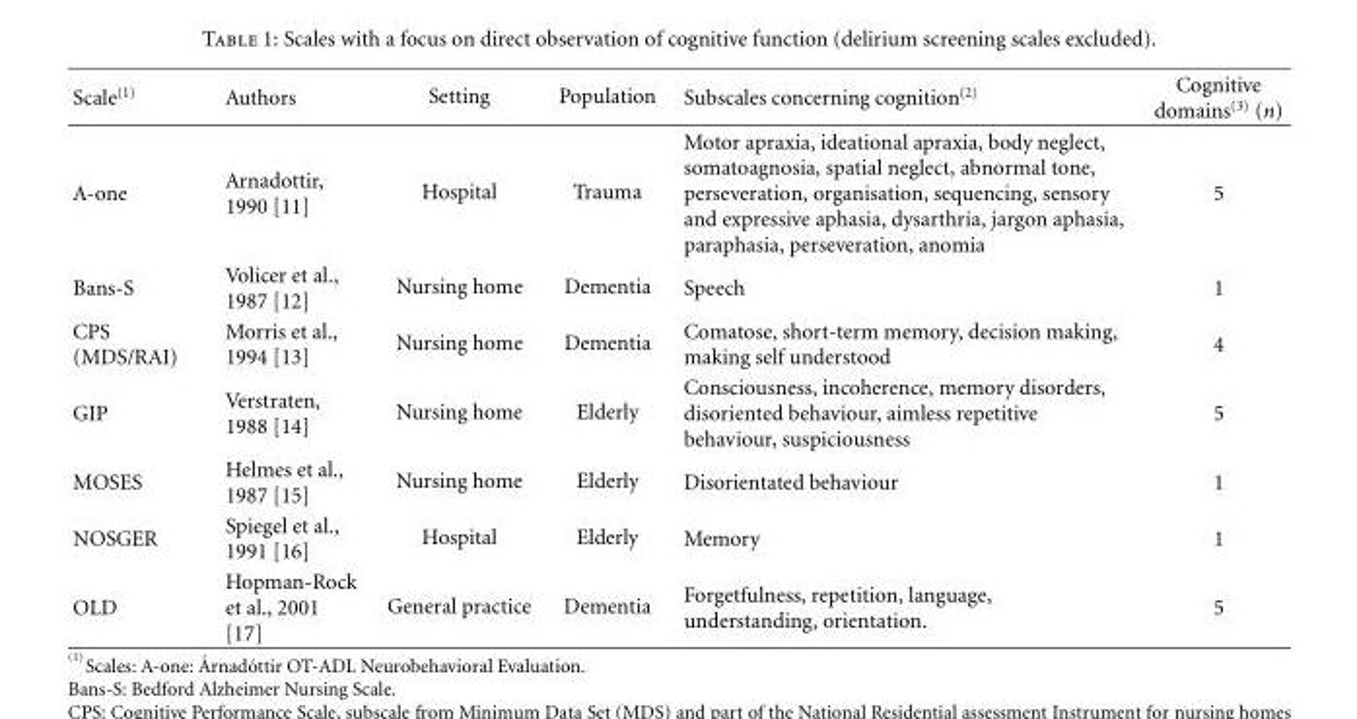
<table><thead><tr><td>Scale<sup>(1)</sup></td><td>Authors</td><td>Setting</td><td>Population</td><td>Subscales concerning cognition<sup>(2)</sup></td><td>Cognitive domains<sup>(3)</sup> (n)</td></tr></thead><tbody><tr><td>A-one</td><td>Arnadottir, 1990 [11]</td><td>Hospital</td><td>Trauma</td><td>Motor apraxia, ideational apraxia, body neglect, somatoagnosia, spatial neglect, abnormal tone, perseveration, organisation, sequencing, sensory and expressive aphasia, dysarthria, jargon aphasia, paraphasia, perseveration, anomia</td><td>5</td></tr><tr><td>Bans-S</td><td>Volicer et al., 1987 [12]</td><td>Nursing home</td><td>Dementia</td><td>Speech</td><td>1</td></tr><tr><td>CPS (MDS/RAI)</td><td>Morris et al., 1994 [13]</td><td>Nursing home</td><td>Dementia</td><td>Comatose, short-term memory, decision making, making self understood</td><td>4</td></tr><tr><td>GIP</td><td>Verstraten, 1988 [14]</td><td>Nursing home</td><td>Elderly</td><td>Consciousness, incoherence, memory disorders, disoriented behaviour, aimless repetitive behaviour, suspiciousness</td><td>5</td></tr><tr><td>MOSES</td><td>Helmes et al., 1987 [15]</td><td>Nursing home</td><td>Elderly</td><td>Disorientated behaviour</td><td>1</td></tr><tr><td>NOSGER</td><td>Spiegel et al., 1991 [16]</td><td>Hospital</td><td>Elderly</td><td>Memory</td><td>1</td></tr><tr><td>OLD</td><td>Hopman-Rock et al., 2001 [17]</td><td>General practice</td><td>Dementia</td><td>Forgetfulness, repetition, language, understanding, orientation.</td><td>5</td></tr></tbody></table>